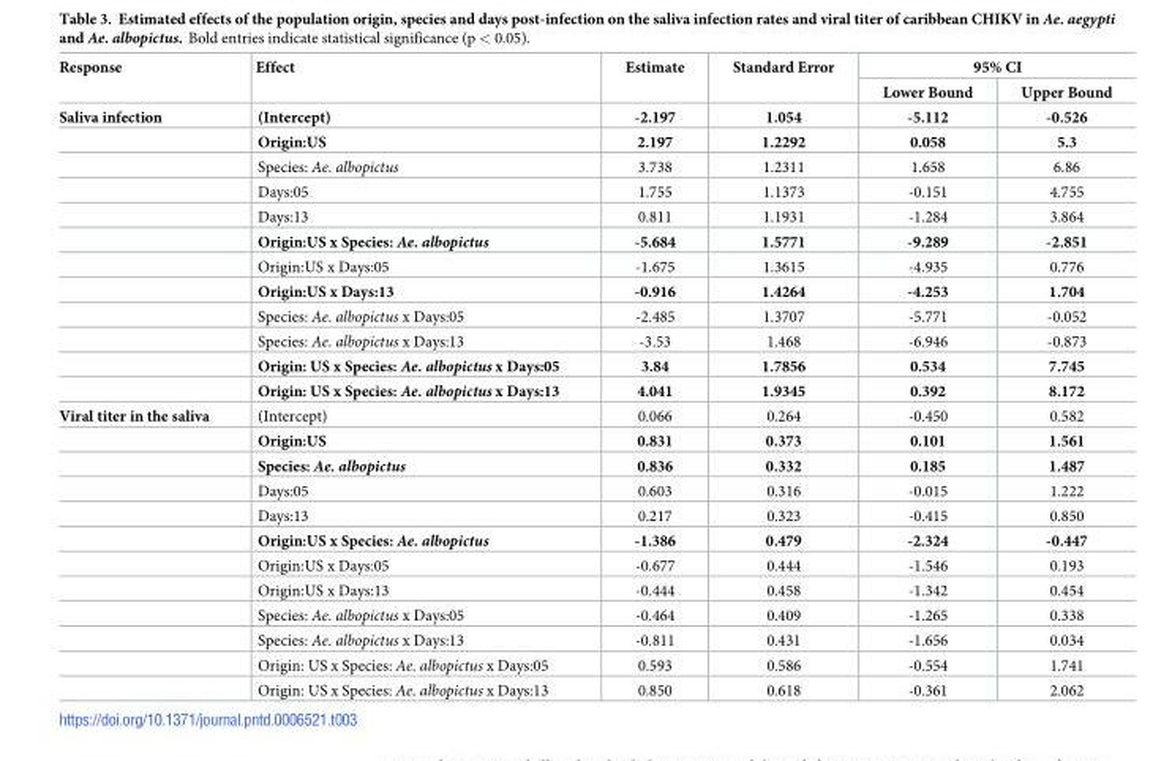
<table><thead><tr><td rowspan="2">Response</td><td rowspan="2">Effect</td><td rowspan="2">Estimate</td><td rowspan="2">Standard Error</td><td colspan="2">95% CI</td></tr><tr><td>Lower Bound</td><td>Upper Bound</td></tr></thead><tbody><tr><td rowspan="12">Saliva infection</td><td>(Intercept)</td><td>-2.197</td><td>1.054</td><td>-5.112</td><td>-0.526</td></tr><tr><td>Origin:US</td><td>2.197</td><td>1.2292</td><td>0.058</td><td>5.3</td></tr><tr><td>Species: Ae. albopictus</td><td>3.738</td><td>1.2311</td><td>1.658</td><td>6.86</td></tr><tr><td>Days:05</td><td>1.755</td><td>1.1373</td><td>-0.151</td><td>4.755</td></tr><tr><td>Days:13</td><td>0.811</td><td>1.1931</td><td>-1.284</td><td>3.864</td></tr><tr><td>Origin:US x Species: Ae. albopictus</td><td>-5.684</td><td>1.5771</td><td>-9.289</td><td>-2.851</td></tr><tr><td>Origin:US x Days:05</td><td>-1.675</td><td>1.3615</td><td>-4.935</td><td>0.776</td></tr><tr><td>Origin:US x Days:13</td><td>-0.916</td><td>1.4264</td><td>-4.253</td><td>1.704</td></tr><tr><td>Species: Ae. albopictus x Days:05</td><td>-2.485</td><td>1.3707</td><td>-5.771</td><td>-0.052</td></tr><tr><td>Species: Ae. albopictus x Days:13</td><td>-3.53</td><td>1.468</td><td>-6.946</td><td>-0.873</td></tr><tr><td>Origin: US x Species: Ae. albopictus x Days:05</td><td>3.84</td><td>1.7856</td><td>0.534</td><td>7.745</td></tr><tr><td>Origin: US x Species: Ae. albopictus x Days:13</td><td>4.041</td><td>1.9345</td><td>0.392</td><td>8.172</td></tr><tr><td rowspan="12">Viral titer in the saliva</td><td>(Intercept)</td><td>0.066</td><td>0.264</td><td>-0.450</td><td>0.582</td></tr><tr><td>Origin:US</td><td>0.831</td><td>0.373</td><td>0.101</td><td>1.561</td></tr><tr><td>Species: Ae. albopictus</td><td>0.836</td><td>0.332</td><td>0.185</td><td>1.487</td></tr><tr><td>Days:05</td><td>0.603</td><td>0.316</td><td>-0.015</td><td>1.222</td></tr><tr><td>Days:13</td><td>0.217</td><td>0.323</td><td>-0.415</td><td>0.850</td></tr><tr><td>Origin:US x Species: Ae. albopictus</td><td>-1.386</td><td>0.479</td><td>-2.324</td><td>-0.447</td></tr><tr><td>Origin:US x Days:05</td><td>-0.677</td><td>0.444</td><td>-1.546</td><td>0.193</td></tr><tr><td>Origin:US x Days:13</td><td>-0.444</td><td>0.458</td><td>-1.342</td><td>0.454</td></tr><tr><td>Species: Ae. albopictus x Days:05</td><td>-0.464</td><td>0.409</td><td>-1.265</td><td>0.338</td></tr><tr><td>Species: Ae. albopictus x Days:13</td><td>-0.811</td><td>0.431</td><td>-1.656</td><td>0.034</td></tr><tr><td>Origin: US x Species: Ae. albopictus x Days:05</td><td>0.593</td><td>0.586</td><td>-0.554</td><td>1.741</td></tr><tr><td>Origin: US x Species: Ae. albopictus x Days:13</td><td>0.850</td><td>0.618</td><td>-0.361</td><td>2.062</td></tr></tbody></table>